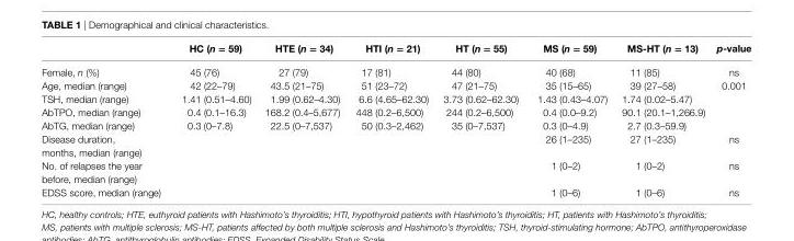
<table><thead><tr><td></td><td>hc (n = 59)</td><td>hTe (n = 34)</td><td>hTi (n = 21)</td><td>hT (n = 55)</td><td>Ms (n = 59)</td><td>Ms-hT (n = 13)</td><td>p-value</td></tr></thead><tbody><tr><td>Female, n (%)</td><td>45 (76)</td><td>27 (79)</td><td>17 (81)</td><td>44 (80)</td><td>40 (68)</td><td>11 (85)</td><td>ns</td></tr><tr><td>Age, median (range)</td><td>42 (22–79)</td><td>43.5 (21–75)</td><td>51 (23–72)</td><td>47 (21–75)</td><td>35 (15–65)</td><td>39 (27–58)</td><td>0.001</td></tr><tr><td>TSH, median (range)</td><td>1.41 (0.51–4.60)</td><td>1.99 (0.62–4.30)</td><td>6.6 (4.65–62.30)</td><td>3.73 (0.62–62.30)</td><td>1.43 (0.43–4.07)</td><td>1.74 (0.02–5.47)</td><td></td></tr><tr><td>AbTPO, median (range)</td><td>0.4 (0.1–16.3)</td><td>168.2 (0.4–5,677)</td><td>448 (0.2–6,500)</td><td>244 (0.2–6,500)</td><td>0.4 (0.0–9.2)</td><td>90.1 (20.1–1,266.9)</td><td></td></tr><tr><td>AbTG, median (range)</td><td>0.3 (0–7.8)</td><td>22.5 (0–7,537)</td><td>50 (0.3–2,462)</td><td>35 (0–7,537)</td><td>0.3 (0–4.9)</td><td>2.7 (0.3–59.9)</td><td></td></tr><tr><td>Disease duration, months, median (range)</td><td></td><td></td><td></td><td></td><td>26 (1–235)</td><td>27 (1–235)</td><td>ns</td></tr><tr><td>No. of relapses the year before, median (range)</td><td></td><td></td><td></td><td></td><td>1 (0–2)</td><td>1 (0–2)</td><td>ns</td></tr><tr><td>EDSS score, median (range)</td><td></td><td></td><td></td><td></td><td>1 (0–6)</td><td>1 (0–6)</td><td>ns</td></tr></tbody></table>